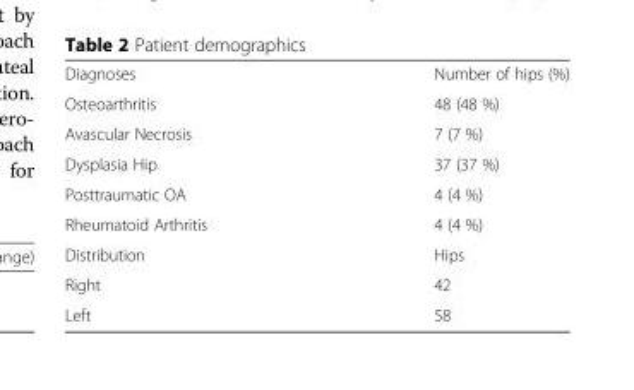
<table><tbody><tr><td>Diagnoses</td><td>Number of hips (%)</td></tr><tr><td>Osteoarthritis</td><td>48 (48 %)</td></tr><tr><td>Avascular Necrosis</td><td>7 (7 %)</td></tr><tr><td>Dysplasia Hip</td><td>37 (37 %)</td></tr><tr><td>Posttraumatic OA</td><td>4 (4 %)</td></tr><tr><td>Rheumatoid Arthritis</td><td>4 (4 %)</td></tr><tr><td>Distribution</td><td>Hips</td></tr><tr><td>Right</td><td>42</td></tr><tr><td>Left</td><td>58</td></tr></tbody></table>